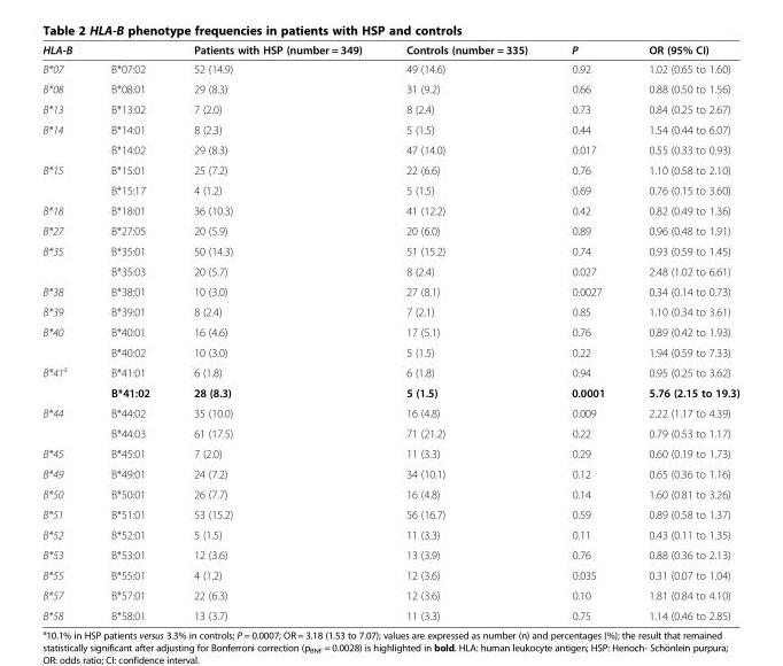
<table><thead><tr><td colspan="2">HLA-B</td><td rowspan="2">Patients with HSP (number = 349) 52 (14.9)</td><td rowspan="2">Controls (number = 335) 49 (14.6)</td><td rowspan="2">P 0.92</td><td rowspan="2">OR (95% CI) 1.02 (0.65 to 1.60)</td></tr><tr><td>B*07</td><td>B*07:02</td></tr></thead><tbody><tr><td>B*08</td><td>B*08:01</td><td>29 (8.3)</td><td>31 (9.2)</td><td>0.66</td><td>0.88 (0.50 to 1.56)</td></tr><tr><td>B*13</td><td>B*13:02</td><td>7 (2.0)</td><td>8 (2.4)</td><td>0.73</td><td>0.84 (0.25 to 2.67)</td></tr><tr><td rowspan="2">B*14</td><td>B*14:01</td><td>8 (2.3)</td><td>5 (1.5)</td><td>0.44</td><td>1.54 (0.44 to 6.07)</td></tr><tr><td>B*14:02</td><td>29 (8.3)</td><td>47 (14.0)</td><td>0.017</td><td>0.55 (0.33 to 0.93)</td></tr><tr><td rowspan="2">B*15</td><td>B*15:01</td><td>25 (7.2)</td><td>22 (6.6)</td><td>0.76</td><td>1.10 (0.58 to 2.10)</td></tr><tr><td>B*15:17</td><td>4 (1.2)</td><td>5 (1.5)</td><td>0.69</td><td>0.76 (0.15 to 3.60)</td></tr><tr><td>B*18</td><td>B*18:01</td><td>36 (10.3)</td><td>41 (12.2)</td><td>0.42</td><td>0.82 (0.49 to 1.36)</td></tr><tr><td>B*27</td><td>B*27:05</td><td>20 (5.9)</td><td>20 (6.0)</td><td>0.89</td><td>0.96 (0.48 to 1.91)</td></tr><tr><td rowspan="2">B*35</td><td>B*35:01</td><td>50 (14.3)</td><td>51 (15.2)</td><td>0.74</td><td>0.93 (0.59 to 1.45)</td></tr><tr><td>B*35:03</td><td>20 (5.7)</td><td>8 (2.4)</td><td>0.027</td><td>2.48 (1.02 to 6.61)</td></tr><tr><td>B*38</td><td>B*38:01</td><td>10 (3.0)</td><td>27 (8.1)</td><td>0.0027</td><td>0.34 (0.14 to 0.73)</td></tr><tr><td>B*39</td><td>B*39:01</td><td>8 (2.4)</td><td>7 (2.1)</td><td>0.85</td><td>1.10 (0.34 to 3.61)</td></tr><tr><td rowspan="2">B*40</td><td>B*40:01</td><td>16 (4.6)</td><td>17 (5.1)</td><td>0.76</td><td>0.89 (0.42 to 1.93)</td></tr><tr><td>B*40:02</td><td>10 (3.0)</td><td>5 (1.5)</td><td>0.22</td><td>1.94 (0.59 to 7.33)</td></tr><tr><td rowspan="2">B*41<sup>a</sup></td><td>B*41:01</td><td>6 (1.8)</td><td>6 (1.8)</td><td>0.94</td><td>0.95 (0.25 to 3.62)</td></tr><tr><td>B*41:02</td><td>28 (8.3)</td><td>5 (1.5)</td><td>0.0001</td><td>5.76 (2.15 to 19.3)</td></tr><tr><td rowspan="2">B*44</td><td>B*44:02</td><td>35 (10.0)</td><td>16 (4.8)</td><td>0.009</td><td>2.22 (1.17 to 4.39)</td></tr><tr><td>B*44:03</td><td>61 (17.5)</td><td>71 (21.2)</td><td>0.22</td><td>0.79 (0.53 to 1.17)</td></tr><tr><td>B*45</td><td>B*45:01</td><td>7 (2.0)</td><td>11 (3.3)</td><td>0.29</td><td>0.60 (0.19 to 1.73)</td></tr><tr><td>B*49</td><td>B*49:01</td><td>24 (7.2)</td><td>34 (10.1)</td><td>0.12</td><td>0.65 (0.36 to 1.16)</td></tr><tr><td>B*50</td><td>B*50:01</td><td>26 (7.7)</td><td>16 (4.8)</td><td>0.14</td><td>1.60 (0.81 to 3.26)</td></tr><tr><td>B*51</td><td>B*51:01</td><td>53 (15.2)</td><td>56 (16.7)</td><td>0.59</td><td>0.89 (0.58 to 1.37)</td></tr><tr><td>B*52</td><td>B*52:01</td><td>5 (1.5)</td><td>11 (3.3)</td><td>0.11</td><td>0.43 (0.11 to 1.35)</td></tr><tr><td>B*53</td><td>B*53:01</td><td>12 (3.6)</td><td>13 (3.9)</td><td>0.76</td><td>0.88 (0.36 to 2.13)</td></tr><tr><td>B*55</td><td>B*55:01</td><td>4 (1.2)</td><td>12 (3.6)</td><td>0.035</td><td>0.31 (0.07 to 1.04)</td></tr><tr><td>B*57</td><td>B*57:01</td><td>22 (6.3)</td><td>12 (3.6)</td><td>0.10</td><td>1.81 (0.84 to 4.10)</td></tr><tr><td>B*58</td><td>B*58:01</td><td>13 (3.7)</td><td>11 (3.3)</td><td>0.75</td><td>1.14 (0.46 to 2.85)</td></tr></tbody></table>